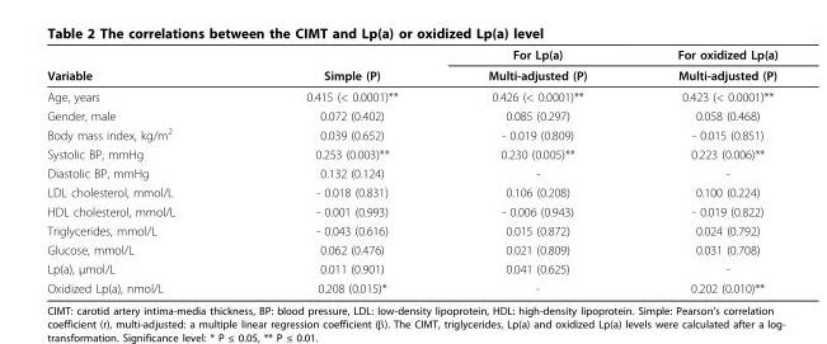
<table><thead><tr><td rowspan="2">Variable</td><td rowspan="2">Simple (P)</td><td rowspan="2">For Lp(a) Multi-adjusted (P)</td><td rowspan="2">For oxidized Lp(a) Multi-adjusted (P)</td></tr><tr></tr></thead><tbody><tr><td>Age, years</td><td>0.415 (&lt; 0.0001)**</td><td>0.426 (&lt; 0.0001)**</td><td>0.423 (&lt; 0.0001)**</td></tr><tr><td>Gender, male</td><td>0.072 (0.402)</td><td>0.085 (0.297)</td><td>0.058 (0.468)</td></tr><tr><td>Body mass index, kg/m<sup>2</sup></td><td>0.039 (0.652)</td><td>- 0.019 (0.809)</td><td>- 0.015 (0.851)</td></tr><tr><td>Systolic BP, mmHg</td><td>0.253 (0.003)**</td><td>0.230 (0.005)**</td><td>0.223 (0.006)**</td></tr><tr><td>Diastolic BP, mmHg</td><td>0.132 (0.124)</td><td>-</td><td>-</td></tr><tr><td>LDL cholesterol, mmol/L</td><td>- 0.018 (0.831)</td><td>0.106 (0.208)</td><td>0.100 (0.224)</td></tr><tr><td>HDL cholesterol, mmol/L</td><td>- 0.001 (0.993)</td><td>- 0.006 (0.943)</td><td>- 0.019 (0.822)</td></tr><tr><td>Triglycerides, mmol/L</td><td>- 0.043 (0.616)</td><td>0.015 (0.872)</td><td>0.024 (0.792)</td></tr><tr><td>Glucose, mmol/L</td><td>0.062 (0.476)</td><td>0.021 (0.809)</td><td>0.031 (0.708)</td></tr><tr><td>Lp(a), μmol/L</td><td>0.011 (0.901)</td><td>0.041 (0.625)</td><td>-</td></tr><tr><td>Oxidized Lp(a), nmol/L</td><td>0.208 (0.015)*</td><td>-</td><td>0.202 (0.010)**</td></tr></tbody></table>